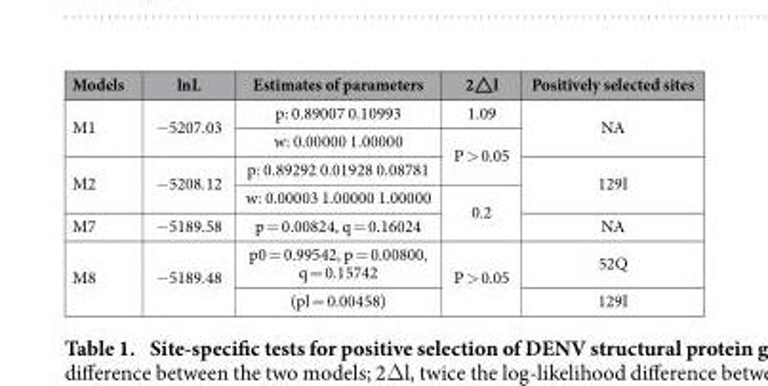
<table><thead><tr><td>Models</td><td>lnL</td><td>Estimates of parameters</td><td>2△l</td><td>Positively selected sites</td></tr></thead><tbody><tr><td rowspan="2">M1</td><td rowspan="2">− 5207.03</td><td>p: 0.89007 0.10993</td><td>1.09</td><td rowspan="2">NA</td></tr><tr><td>w: 0.00000 1.00000</td><td rowspan="2">P &gt; 0.05</td></tr><tr><td rowspan="2">M2</td><td rowspan="2">− 5208.12</td><td>p: 0.89292 0.01928 0.08781</td><td rowspan="2">129I</td></tr><tr><td>w: 0.00003 1.00000 1.00000</td><td rowspan="2">0.2</td></tr><tr><td>M7</td><td>− 5189.58</td><td>p = 0.00824, q = 0.16024</td><td>NA</td></tr><tr><td rowspan="2">M8</td><td rowspan="2">− 5189.48</td><td>p0 = 0.99542, p = 0.00800, q = 0.15742</td><td rowspan="2">P &gt; 0.05</td><td>52Q</td></tr><tr><td>(pl = 0.00458)</td><td>129I</td></tr></tbody></table>